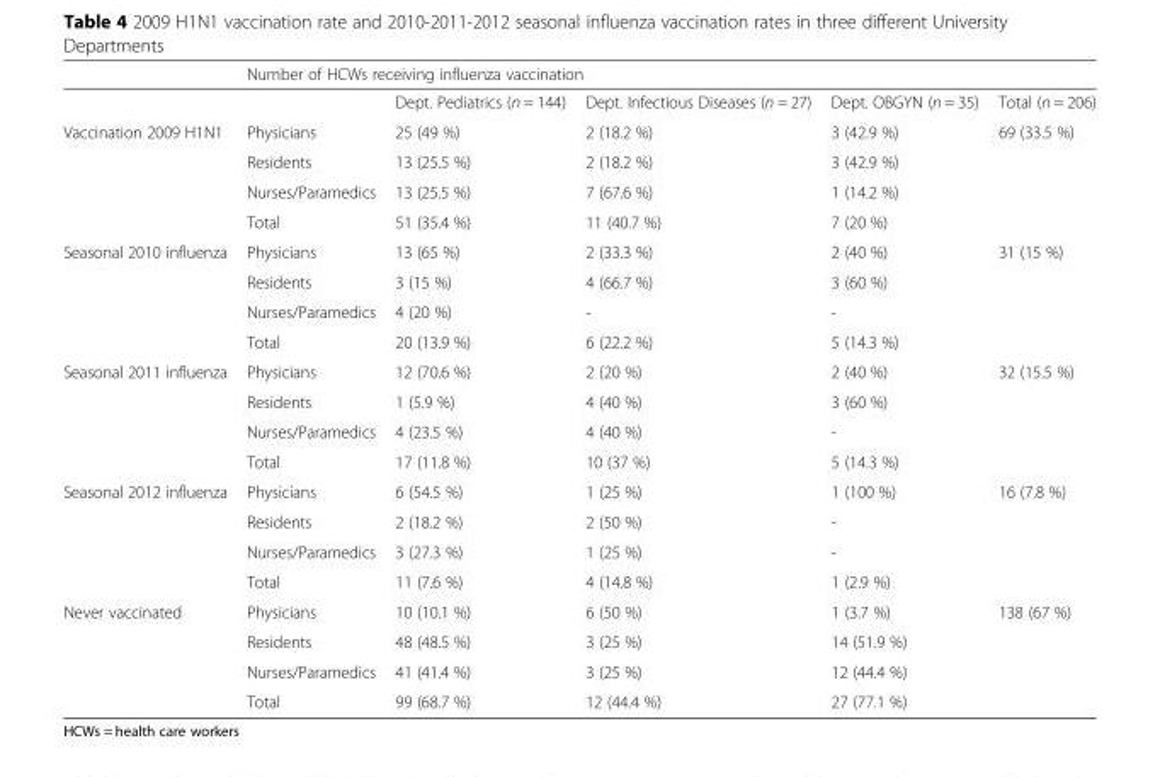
<table><thead><tr><td rowspan="2"></td><td colspan="5">Number of HCWs receiving influenza vaccination</td></tr><tr><td></td><td>Dept. Pediatrics (n = 144)</td><td>Dept. Infectious Diseases (n = 27)</td><td>Dept. OBGYN (n = 35)</td><td>Total (n = 206)</td></tr></thead><tbody><tr><td rowspan="4">Vaccination 2009 H1N1</td><td>Physicians</td><td>25 (49 %)</td><td>2 (18.2 %)</td><td>3 (42.9 %)</td><td rowspan="3">69 (33.5 %)</td></tr><tr><td>Residents</td><td>13 (25.5 %)</td><td>2 (18.2 %)</td><td>3 (42.9 %)</td></tr><tr><td>Nurses/Paramedics</td><td>13 (25.5 %)</td><td>7 (67.6 %)</td><td>1 (14.2 %)</td></tr><tr><td>Total</td><td>51 (35.4 %)</td><td>11 (40.7 %)</td><td>7 (20 %)</td><td></td></tr><tr><td rowspan="4">Seasonal 2010 influenza</td><td>Physicians</td><td>13 (65 %)</td><td>2 (33.3 %)</td><td>2 (40 %)</td><td rowspan="3">31 (15 %)</td></tr><tr><td>Residents</td><td>3 (15 %)</td><td>4 (66.7 %)</td><td>3 (60 %)</td></tr><tr><td>Nurses/Paramedics</td><td>4 (20 %)</td><td>-</td><td>-</td></tr><tr><td>Total</td><td>20 (13.9 %)</td><td>6 (22.2 %)</td><td>5 (14.3 %)</td><td></td></tr><tr><td rowspan="4">Seasonal 2011 influenza</td><td>Physicians</td><td>12 (70.6 %)</td><td>2 (20 %)</td><td>2 (40 %)</td><td rowspan="3">32 (15.5 %)</td></tr><tr><td>Residents</td><td>1 (5.9 %)</td><td>4 (40 %)</td><td>3 (60 %)</td></tr><tr><td>Nurses/Paramedics</td><td>4 (23.5 %)</td><td>4 (40 %)</td><td>-</td></tr><tr><td>Total</td><td>17 (11.8 %)</td><td>10 (37 %)</td><td>5 (14.3 %)</td><td></td></tr><tr><td rowspan="4">Seasonal 2012 influenza</td><td>Physicians</td><td>6 (54.5 %)</td><td>1 (25 %)</td><td>1 (100 %)</td><td rowspan="3">16 (7.8 %)</td></tr><tr><td>Residents</td><td>2 (18.2 %)</td><td>2 (50 %)</td><td>-</td></tr><tr><td>Nurses/Paramedics</td><td>3 (27.3 %)</td><td>1 (25 %)</td><td>-</td></tr><tr><td>Total</td><td>11 (7.6 %)</td><td>4 (14.8 %)</td><td>1 (2.9 %)</td><td></td></tr><tr><td rowspan="4">Never vaccinated</td><td>Physicians</td><td>10 (10.1 %)</td><td>6 (50 %)</td><td>1 (3.7 %)</td><td rowspan="3">138 (67 %)</td></tr><tr><td>Residents</td><td>48 (48.5 %)</td><td>3 (25 %)</td><td>14 (51.9 %)</td></tr><tr><td>Nurses/Paramedics</td><td>41 (41.4 %)</td><td>3 (25 %)</td><td>12 (44.4 %)</td></tr><tr><td>Total</td><td>99 (68.7 %)</td><td>12 (44.4 %)</td><td>27 (77.1 %)</td><td></td></tr></tbody></table>